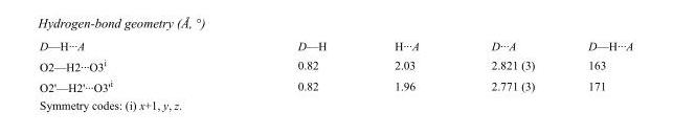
<table><tbody><tr><td>D—H···A</td><td>D—H</td><td>H···A</td><td>D···A</td><td>D—H···A</td></tr><tr><td>O2—H2···O3<sup>i</sup></td><td>0.82</td><td>2.03</td><td>2.821 (3)</td><td>163</td></tr><tr><td>O2&#x27;—H2&#x27;···O3&#x27;<sup>i</sup></td><td>0.82</td><td>1.96</td><td>2.771 (3)</td><td>171</td></tr></tbody></table>